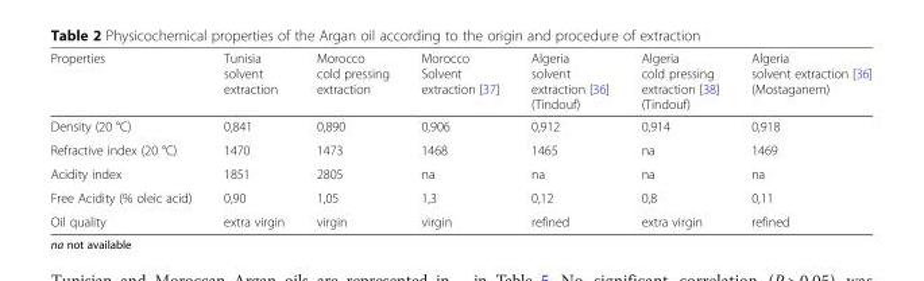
<table><thead><tr><td>Properties</td><td>Tunisia solvent extraction</td><td>Morocco cold pressing extraction</td><td>Morocco Solvent extraction [37]</td><td>Algeria solvent extraction [36] (Tindouf)</td><td>Algeria cold pressing extraction [38] (Tindouf)</td><td>Algeria solvent extraction [36] (Mostaganem)</td></tr></thead><tbody><tr><td>Density (20 °C)</td><td>0,841</td><td>0,890</td><td>0,906</td><td>0,912</td><td>0,914</td><td>0,918</td></tr><tr><td>Refractive index (20 °C)</td><td>1470</td><td>1473</td><td>1468</td><td>1465</td><td>na</td><td>1469</td></tr><tr><td>Acidity index</td><td>1851</td><td>2805</td><td>na</td><td>na</td><td>na</td><td>na</td></tr><tr><td>Free Acidity (% oleic acid)</td><td>0,90</td><td>1,05</td><td>1,3</td><td>0,12</td><td>0,8</td><td>0,11</td></tr><tr><td>Oil quality</td><td>extra virgin</td><td>virgin</td><td>virgin</td><td>refined</td><td>extra virgin</td><td>refined</td></tr></tbody></table>